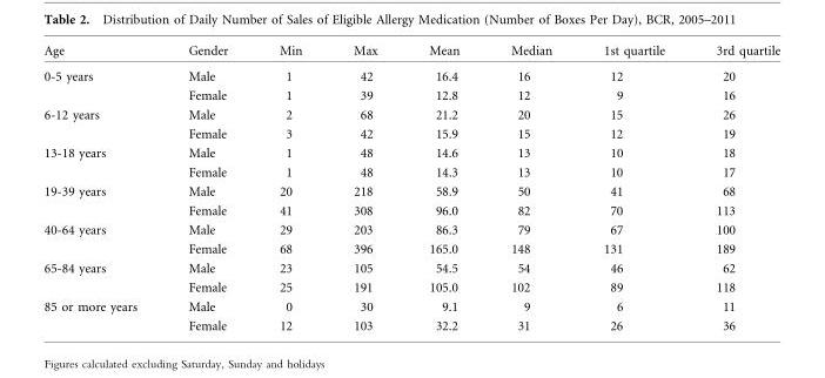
<table><thead><tr><td>Age</td><td>Gender</td><td>Min</td><td>Max</td><td>Mean</td><td>Median</td><td>1st quartile</td><td>3rd quartile</td></tr></thead><tbody><tr><td rowspan="2">0-5 years</td><td>Male</td><td>1</td><td>42</td><td>16.4</td><td>16</td><td>12</td><td>20</td></tr><tr><td>Female</td><td>1</td><td>39</td><td>12.8</td><td>12</td><td>9</td><td>16</td></tr><tr><td rowspan="2">6-12 years</td><td>Male</td><td>2</td><td>68</td><td>21.2</td><td>20</td><td>15</td><td>26</td></tr><tr><td>Female</td><td>3</td><td>42</td><td>15.9</td><td>15</td><td>12</td><td>19</td></tr><tr><td rowspan="2">13-18 years</td><td>Male</td><td>1</td><td>48</td><td>14.6</td><td>13</td><td>10</td><td>18</td></tr><tr><td>Female</td><td>1</td><td>48</td><td>14.3</td><td>13</td><td>10</td><td>17</td></tr><tr><td rowspan="2">19-39 years</td><td>Male</td><td>20</td><td>218</td><td>58.9</td><td>50</td><td>41</td><td>68</td></tr><tr><td>Female</td><td>41</td><td>308</td><td>96.0</td><td>82</td><td>70</td><td>113</td></tr><tr><td rowspan="2">40-64 years</td><td>Male</td><td>29</td><td>203</td><td>86.3</td><td>79</td><td>67</td><td>100</td></tr><tr><td>Female</td><td>68</td><td>396</td><td>165.0</td><td>148</td><td>131</td><td>189</td></tr><tr><td rowspan="2">65-84 years</td><td>Male</td><td>23</td><td>105</td><td>54.5</td><td>54</td><td>46</td><td>62</td></tr><tr><td>Female</td><td>25</td><td>191</td><td>105.0</td><td>102</td><td>89</td><td>118</td></tr><tr><td rowspan="2">85 or more years</td><td>Male</td><td>0</td><td>30</td><td>9.1</td><td>9</td><td>6</td><td>11</td></tr><tr><td>Female</td><td>12</td><td>103</td><td>32.2</td><td>31</td><td>26</td><td>36</td></tr></tbody></table>